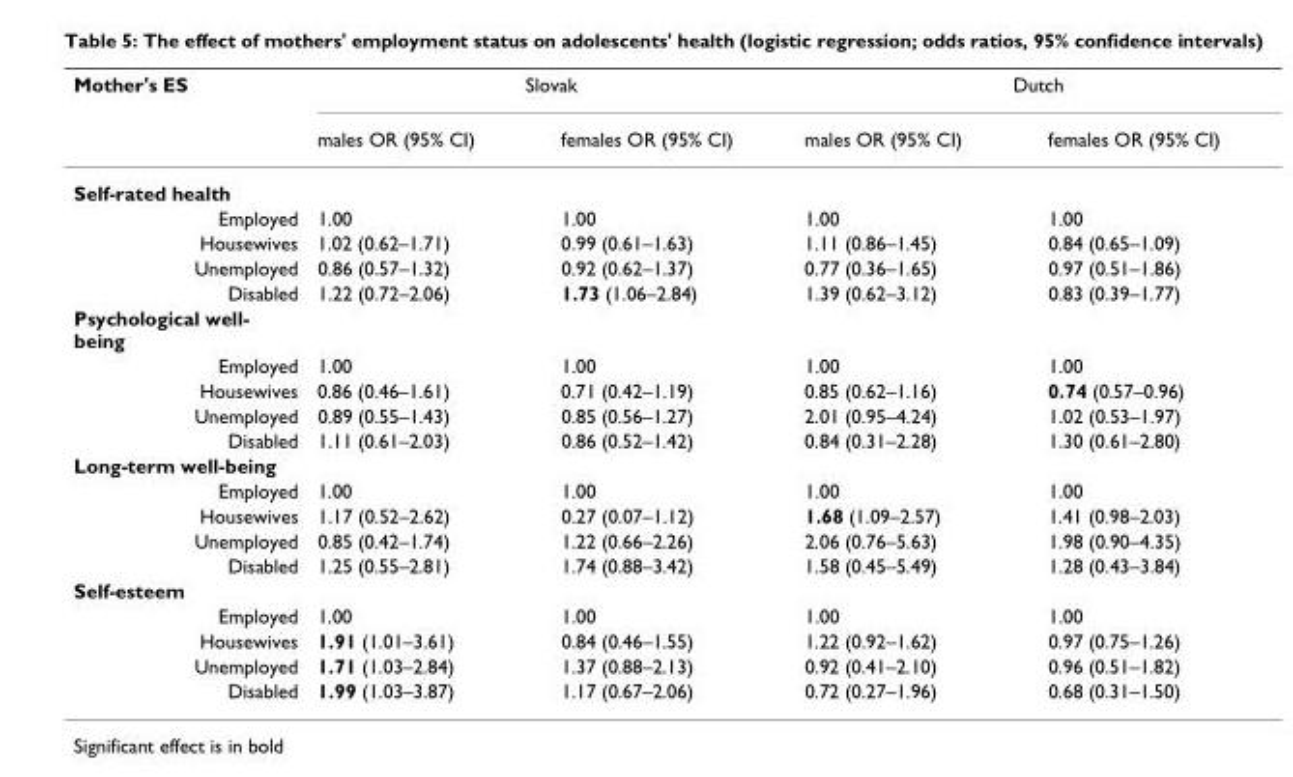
<table><thead><tr><td rowspan="2">Mother&#x27;s ES</td><td colspan="2">Slovak</td><td colspan="2">Dutch</td></tr><tr><td>males OR (95% CI)</td><td>females OR (95% CI)</td><td>males OR (95% CI)</td><td>females OR (95% CI)</td></tr></thead><tbody><tr><td colspan="5">Self-rated health</td></tr><tr><td>Employed</td><td>1.00</td><td>1.00</td><td>1.00</td><td>1.00</td></tr><tr><td>Housewives</td><td>1.02 (0.62–1.71)</td><td>0.99 (0.61–1.63)</td><td>1.11 (0.86–1.45)</td><td>0.84 (0.65–1.09)</td></tr><tr><td>Unemployed</td><td>0.86 (0.57–1.32)</td><td>0.92 (0.62–1.37)</td><td>0.77 (0.36–1.65)</td><td>0.97 (0.51–1.86)</td></tr><tr><td>Disabled</td><td>1.22 (0.72–2.06)</td><td>1.73 (1.06–2.84)</td><td>1.39 (0.62–3.12)</td><td>0.83 (0.39–1.77)</td></tr><tr><td colspan="5">Psychological well- being</td></tr><tr><td>Employed</td><td>1.00</td><td>1.00</td><td>1.00</td><td>1.00</td></tr><tr><td>Housewives</td><td>0.86 (0.46–1.61)</td><td>0.71 (0.42–1.19)</td><td>0.85 (0.62–1.16)</td><td>0.74 (0.57–0.96)</td></tr><tr><td>Unemployed</td><td>0.89 (0.55–1.43)</td><td>0.85 (0.56–1.27)</td><td>2.01 (0.95–4.24)</td><td>1.02 (0.53–1.97)</td></tr><tr><td>Disabled</td><td>1.11 (0.61–2.03)</td><td>0.86 (0.52–1.42)</td><td>0.84 (0.31–2.28)</td><td>1.30 (0.61–2.80)</td></tr><tr><td colspan="5">Long-term well-being</td></tr><tr><td>Employed</td><td>1.00</td><td>1.00</td><td>1.00</td><td>1.00</td></tr><tr><td>Housewives</td><td>1.17 (0.52–2.62)</td><td>0.27 (0.07–1.12)</td><td>1.68 (1.09–2.57)</td><td>1.41 (0.98–2.03)</td></tr><tr><td>Unemployed</td><td>0.85 (0.42–1.74)</td><td>1.22 (0.66–2.26)</td><td>2.06 (0.76–5.63)</td><td>1.98 (0.90–4.35)</td></tr><tr><td>Disabled</td><td>1.25 (0.55–2.81)</td><td>1.74 (0.88–3.42)</td><td>1.58 (0.45–5.49)</td><td>1.28 (0.43–3.84)</td></tr><tr><td colspan="5">Self-esteem</td></tr><tr><td>Employed</td><td>1.00</td><td>1.00</td><td>1.00</td><td>1.00</td></tr><tr><td>Housewives</td><td>1.91 (1.01–3.61)</td><td>0.84 (0.46–1.55)</td><td>1.22 (0.92–1.62)</td><td>0.97 (0.75–1.26)</td></tr><tr><td>Unemployed</td><td>1.71 (1.03–2.84)</td><td>1.37 (0.88–2.13)</td><td>0.92 (0.41–2.10)</td><td>0.96 (0.51–1.82)</td></tr><tr><td>Disabled</td><td>1.99 (1.03–3.87)</td><td>1.17 (0.67–2.06)</td><td>0.72 (0.27–1.96)</td><td>0.68 (0.31–1.50)</td></tr></tbody></table>